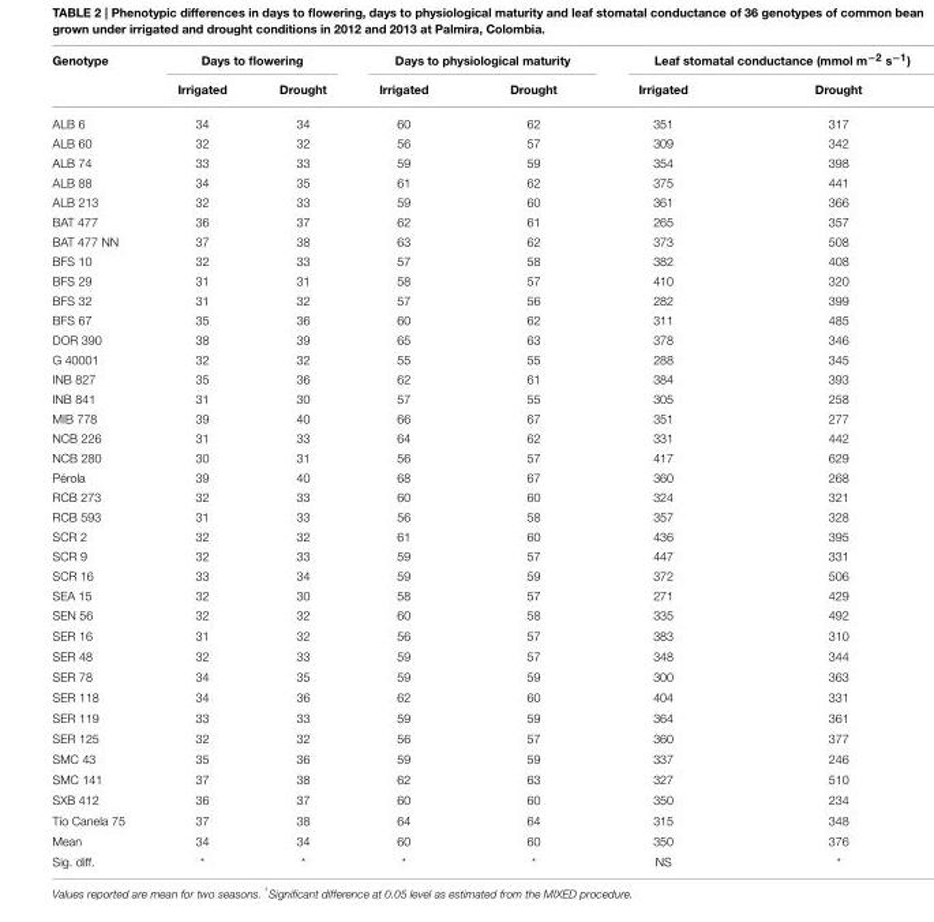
<table><thead><tr><td rowspan="2">Genotype</td><td colspan="2">Days to flowering</td><td colspan="2">Days to physiological maturity</td><td colspan="2">Leaf stomatal conductance (mmol m−2</td></tr><tr><td>Irrigated</td><td>Drought</td><td>Irrigated</td><td>Drought</td><td>Irrigated</td><td>Drought</td></tr></thead><tbody><tr><td>ALB 6</td><td>34</td><td>34</td><td>60</td><td>62</td><td>351</td><td>317</td></tr><tr><td>ALB 60</td><td>32</td><td>32</td><td>56</td><td>57</td><td>309</td><td>342</td></tr><tr><td>ALB 74</td><td>33</td><td>33</td><td>59</td><td>59</td><td>354</td><td>398</td></tr><tr><td>ALB 88</td><td>34</td><td>35</td><td>61</td><td>62</td><td>375</td><td>441</td></tr><tr><td>ALB 213</td><td>32</td><td>33</td><td>59</td><td>60</td><td>361</td><td>366</td></tr><tr><td>BAT 477</td><td>36</td><td>37</td><td>62</td><td>61</td><td>265</td><td>357</td></tr><tr><td>BAT 477 NN</td><td>37</td><td>38</td><td>63</td><td>62</td><td>373</td><td>508</td></tr><tr><td>BFS 10</td><td>32</td><td>33</td><td>57</td><td>58</td><td>382</td><td>408</td></tr><tr><td>BFS 29</td><td>31</td><td>31</td><td>58</td><td>57</td><td>410</td><td>320</td></tr><tr><td>BFS 32</td><td>31</td><td>32</td><td>57</td><td>56</td><td>282</td><td>399</td></tr><tr><td>BFS 67</td><td>35</td><td>36</td><td>60</td><td>62</td><td>311</td><td>485</td></tr><tr><td>DOR 390</td><td>38</td><td>39</td><td>65</td><td>63</td><td>378</td><td>346</td></tr><tr><td>G 40001</td><td>32</td><td>32</td><td>55</td><td>55</td><td>288</td><td>345</td></tr><tr><td>INB 827</td><td>35</td><td>36</td><td>62</td><td>61</td><td>384</td><td>393</td></tr><tr><td>INB 841</td><td>31</td><td>30</td><td>57</td><td>55</td><td>305</td><td>258</td></tr><tr><td>MIB 778</td><td>39</td><td>40</td><td>66</td><td>67</td><td>351</td><td>277</td></tr><tr><td>NCB 226</td><td>31</td><td>33</td><td>64</td><td>62</td><td>331</td><td>442</td></tr><tr><td>NCB 280</td><td>30</td><td>31</td><td>56</td><td>57</td><td>417</td><td>629</td></tr><tr><td>Pérola</td><td>39</td><td>40</td><td>68</td><td>67</td><td>360</td><td>268</td></tr><tr><td>RCB 273</td><td>32</td><td>33</td><td>60</td><td>60</td><td>324</td><td>321</td></tr><tr><td>RCB 593</td><td>31</td><td>33</td><td>56</td><td>58</td><td>357</td><td>328</td></tr><tr><td>SCR 2</td><td>32</td><td>32</td><td>61</td><td>60</td><td>436</td><td>395</td></tr><tr><td>SCR 9</td><td>32</td><td>33</td><td>59</td><td>57</td><td>447</td><td>331</td></tr><tr><td>SCR 16</td><td>33</td><td>34</td><td>59</td><td>59</td><td>372</td><td>506</td></tr><tr><td>SEA 15</td><td>32</td><td>30</td><td>58</td><td>57</td><td>271</td><td>429</td></tr><tr><td>SEN 56</td><td>32</td><td>32</td><td>60</td><td>58</td><td>335</td><td>492</td></tr><tr><td>SER 16</td><td>31</td><td>32</td><td>56</td><td>57</td><td>383</td><td>310</td></tr><tr><td>SER 48</td><td>32</td><td>33</td><td>59</td><td>57</td><td>348</td><td>344</td></tr><tr><td>SER 78</td><td>34</td><td>35</td><td>59</td><td>59</td><td>300</td><td>363</td></tr><tr><td>SER 118</td><td>34</td><td>36</td><td>62</td><td>60</td><td>404</td><td>331</td></tr><tr><td>SER 119</td><td>33</td><td>33</td><td>59</td><td>59</td><td>364</td><td>361</td></tr><tr><td>SER 125</td><td>32</td><td>32</td><td>56</td><td>57</td><td>360</td><td>377</td></tr><tr><td>SMC 43</td><td>35</td><td>36</td><td>59</td><td>59</td><td>337</td><td>246</td></tr><tr><td>SMC 141</td><td>37</td><td>38</td><td>62</td><td>63</td><td>327</td><td>510</td></tr><tr><td>SXB 412</td><td>36</td><td>37</td><td>60</td><td>60</td><td>350</td><td>234</td></tr><tr><td>Tío Canela 75</td><td>37</td><td>38</td><td>64</td><td>64</td><td>315</td><td>348</td></tr><tr><td>Mean</td><td>34</td><td>34</td><td>60</td><td>60</td><td>350</td><td>376</td></tr><tr><td>Sig. diff.</td><td>*</td><td>*</td><td>*</td><td>*</td><td>NS</td><td>*</td></tr></tbody></table>